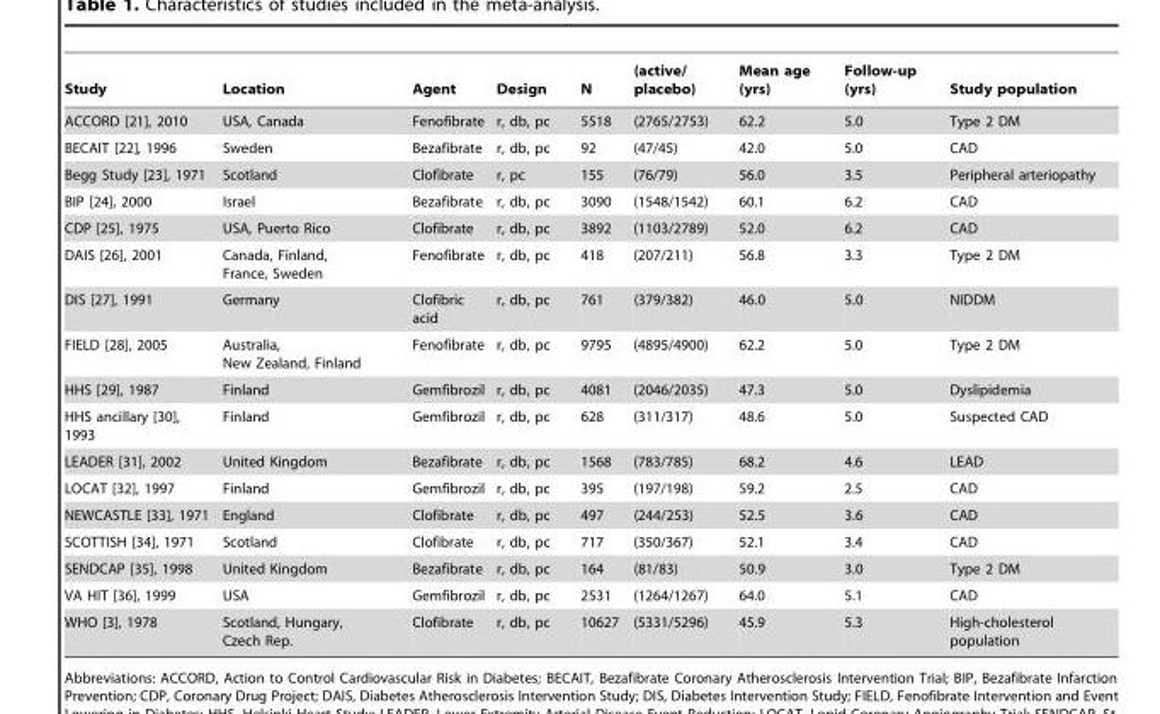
<table><thead><tr><td>Study</td><td>Location</td><td>Agent</td><td>Design</td><td>N</td><td>(active/ placebo)</td><td>Mean age (yrs)</td><td>Follow-up (yrs)</td><td>Study population</td></tr></thead><tbody><tr><td>ACCORD [21], 2010</td><td>USA, Canada</td><td>Fenofibrate</td><td>r, db, pc</td><td>5518</td><td>(2765/2753)</td><td>62.2</td><td>5.0</td><td>Type 2 DM</td></tr><tr><td>BECAIT [22], 1996</td><td>Sweden</td><td>Bezafibrate</td><td>r, db, pc</td><td>92</td><td>(47/45)</td><td>42.0</td><td>5.0</td><td>CAD</td></tr><tr><td>Begg Study [23], 1971</td><td>Scotland</td><td>Clofibrate</td><td>r, pc</td><td>155</td><td>(76/79)</td><td>56.0</td><td>3.5</td><td>Peripheral arteriopathy</td></tr><tr><td>BIP [24], 2000</td><td>Israel</td><td>Bezafibrate</td><td>r, db, pc</td><td>3090</td><td>(1548/1542)</td><td>60.1</td><td>6.2</td><td>CAD</td></tr><tr><td>CDP [25], 1975</td><td>USA, Puerto Rico</td><td>Clofibrate</td><td>r, db, pc</td><td>3892</td><td>(1103/2789)</td><td>52.0</td><td>6.2</td><td>CAD</td></tr><tr><td>DAIS [26], 2001</td><td>Canada, Finland, France, Sweden</td><td>Fenofibrate</td><td>r, db, pc</td><td>418</td><td>(207/211)</td><td>56.8</td><td>3.3</td><td>Type 2 DM</td></tr><tr><td>DIS [27], 1991</td><td>Germany</td><td>Clofibric acid</td><td>r, db, pc</td><td>761</td><td>(379/382)</td><td>46.0</td><td>5.0</td><td>NIDDM</td></tr><tr><td>FIELD [28], 2005</td><td>Australia, New Zealand, Finland</td><td>Fenofibrate</td><td>r, db, pc</td><td>9795</td><td>(4895/4900)</td><td>62.2</td><td>5.0</td><td>Type 2 DM</td></tr><tr><td>HHS [29], 1987</td><td>Finland</td><td>Gemfibrozil</td><td>r, db, pc</td><td>4081</td><td>(2046/2035)</td><td>47.3</td><td>5.0</td><td>Dyslipidemia</td></tr><tr><td>HHS ancillary [30], 1993</td><td>Finland</td><td>Gemfibrozil</td><td>r, db, pc</td><td>628</td><td>(311/317)</td><td>48.6</td><td>5.0</td><td>Suspected CAD</td></tr><tr><td>LEADER [31], 2002</td><td>United Kingdom</td><td>Bezafibrate</td><td>r, db, pc</td><td>1568</td><td>(783/785)</td><td>68.2</td><td>4.6</td><td>LEAD</td></tr><tr><td>LOCAT [32], 1997</td><td>Finland</td><td>Gemfibrozil</td><td>r, db, pc</td><td>395</td><td>(197/198)</td><td>59.2</td><td>2.5</td><td>CAD</td></tr><tr><td>NEWCASTLE [33], 1971</td><td>England</td><td>Clofibrate</td><td>r, db, pc</td><td>497</td><td>(244/253)</td><td>52.5</td><td>3.6</td><td>CAD</td></tr><tr><td>SCOTTISH [34], 1971</td><td>Scotland</td><td>Clofibrate</td><td>r, db, pc</td><td>717</td><td>(350/367)</td><td>52.1</td><td>3.4</td><td>CAD</td></tr><tr><td>SENDCAP [35], 1998</td><td>United Kingdom</td><td>Bezafibrate</td><td>r, db, pc</td><td>164</td><td>(81/83)</td><td>50.9</td><td>3.0</td><td>Type 2 DM</td></tr><tr><td>VA HIT [36], 1999</td><td>USA</td><td>Gemfibrozil</td><td>r, db, pc</td><td>2531</td><td>(1264/1267)</td><td>64.0</td><td>5.1</td><td>CAD</td></tr><tr><td>WHO [3], 1978</td><td>Scotland, Hungary, Czech Rep.</td><td>Clofibrate</td><td>r, db, pc</td><td>10627</td><td>(5331/5296)</td><td>45.9</td><td>5.3</td><td>High-cholesterol population</td></tr></tbody></table>